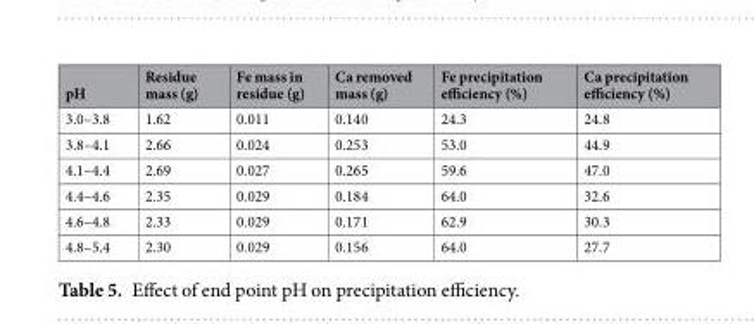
<table><thead><tr><td>pH</td><td>Residue mass (g)</td><td>Fe mass in residue (g)</td><td>Ca removed mass (g)</td><td>Fe precipitation efficiency (%)</td><td>Ca precipitation efficiency (%)</td></tr></thead><tbody><tr><td>3.0–3.8</td><td>1.62</td><td>0.011</td><td>0.140</td><td>24.3</td><td>24.8</td></tr><tr><td>3.8–4.1</td><td>2.66</td><td>0.024</td><td>0.253</td><td>53.0</td><td>44.9</td></tr><tr><td>4.1–4.4</td><td>2.69</td><td>0.027</td><td>0.265</td><td>59.6</td><td>47.0</td></tr><tr><td>4.4–4.6</td><td>2.35</td><td>0.029</td><td>0.184</td><td>64.0</td><td>32.6</td></tr><tr><td>4.6–4.8</td><td>2.33</td><td>0.029</td><td>0.171</td><td>62.9</td><td>30.3</td></tr><tr><td>4.8–5.4</td><td>2.30</td><td>0.029</td><td>0.156</td><td>64.0</td><td>27.7</td></tr></tbody></table>